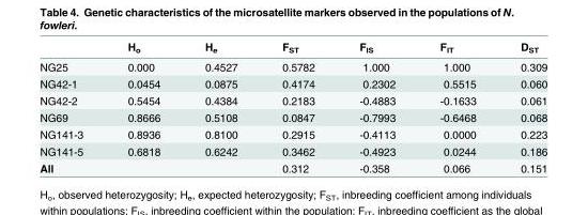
<table><thead><tr><td></td><td>H<sub>o</sub></td><td>H<sub>e</sub></td><td>F<sub>ST</sub></td><td>F<sub>IS</sub></td><td>F<sub>IT</sub></td><td>D<sub>ST</sub></td></tr></thead><tbody><tr><td>NG25</td><td>0.000</td><td>0.4527</td><td>0.5782</td><td>1.000</td><td>1.000</td><td>0.309</td></tr><tr><td>NG42-1</td><td>0.0454</td><td>0.0875</td><td>0.4174</td><td>0.2302</td><td>0.5515</td><td>0.060</td></tr><tr><td>NG42-2</td><td>0.5454</td><td>0.4384</td><td>0.2183</td><td>-0.4883</td><td>-0.1633</td><td>0.061</td></tr><tr><td>NG69</td><td>0.8666</td><td>0.5108</td><td>0.0847</td><td>-0.7993</td><td>-0.6468</td><td>0.068</td></tr><tr><td>NG141-3</td><td>0.8936</td><td>0.8100</td><td>0.2915</td><td>-0.4113</td><td>0.0000</td><td>0.223</td></tr><tr><td>NG141-5</td><td>0.6818</td><td>0.6242</td><td>0.3462</td><td>-0.4923</td><td>0.0244</td><td>0.186</td></tr><tr><td>All</td><td></td><td></td><td>0.312</td><td>-0.358</td><td>0.066</td><td>0.151</td></tr></tbody></table>